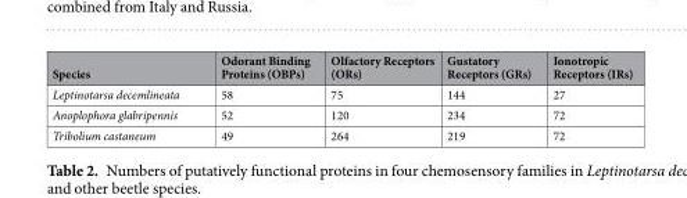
<table><thead><tr><td>Species</td><td>Odorant Binding Proteins (OBPs)</td><td>Olfactory Receptors (ORs)</td><td>Gustatory Receptors (GRs)</td><td>Ionotropic Receptors (IRs)</td></tr></thead><tbody><tr><td>Leptinotarsa decemlineata</td><td>58</td><td>75</td><td>144</td><td>27</td></tr><tr><td>Anoplophora glabripennis</td><td>52</td><td>120</td><td>234</td><td>72</td></tr><tr><td>Tribolium castaneum</td><td>49</td><td>264</td><td>219</td><td>72</td></tr></tbody></table>